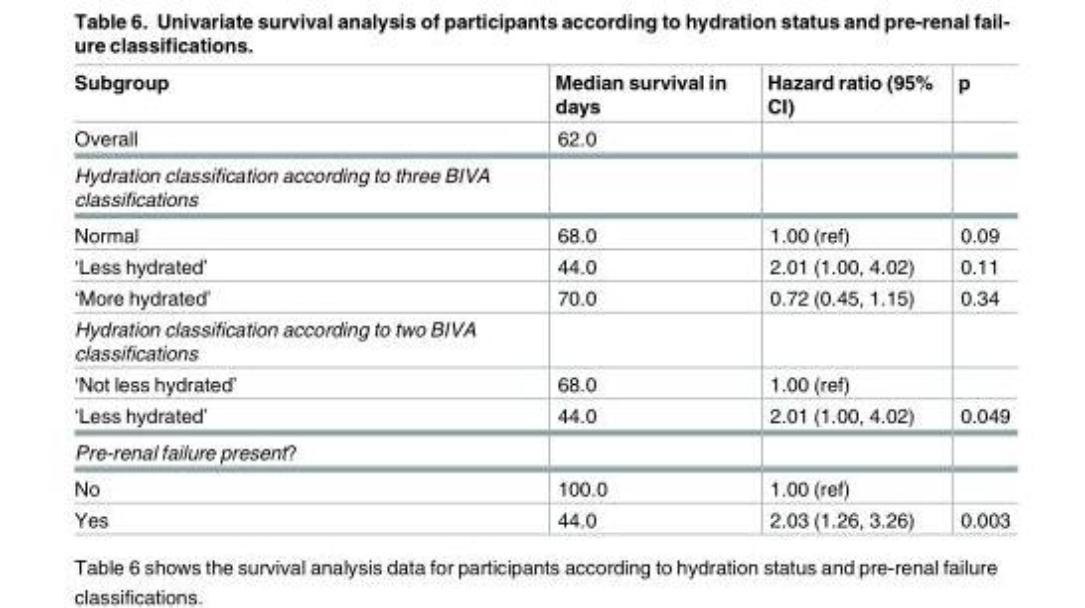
<table><thead><tr><td>Subgroup</td><td>Median survival in days</td><td>Hazard ratio (95% CI)</td><td>p</td></tr></thead><tbody><tr><td>Overall</td><td>62.0</td><td></td><td></td></tr><tr><td colspan="4">Hydration classification according to three BIVA classifications</td></tr><tr><td>Normal</td><td>68.0</td><td>1.00 (ref)</td><td>0.09</td></tr><tr><td>‘Less hydrated’</td><td>44.0</td><td>2.01 (1.00, 4.02)</td><td>0.11</td></tr><tr><td>‘More hydrated’</td><td>70.0</td><td>0.72 (0.45, 1.15)</td><td>0.34</td></tr><tr><td colspan="4">Hydration classification according to two BIVA classifications</td></tr><tr><td>‘Not less hydrated’</td><td>68.0</td><td>1.00 (ref)</td><td></td></tr><tr><td>‘Less hydrated’</td><td>44.0</td><td>2.01 (1.00, 4.02)</td><td>0.049</td></tr><tr><td colspan="4">Pre-renal failure present?</td></tr><tr><td>No</td><td>100.0</td><td>1.00 (ref)</td><td></td></tr><tr><td>Yes</td><td>44.0</td><td>2.03 (1.26, 3.26)</td><td>0.003</td></tr></tbody></table>